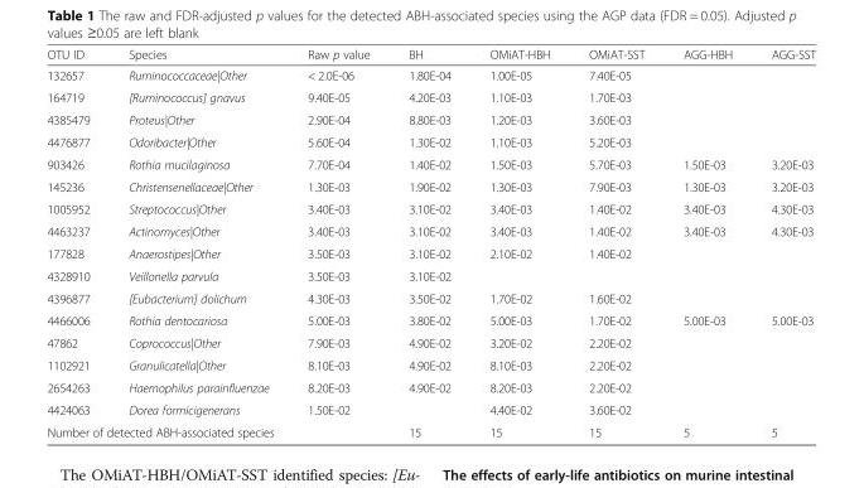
<table><thead><tr><td>OTU ID</td><td>Species</td><td>Raw p value</td><td>BH</td><td>OMiAT-HBH</td><td>OMiAT-SST</td><td>AGG-HBH</td><td>AGG-SST</td></tr></thead><tbody><tr><td>132657</td><td>Ruminococcaceae|Other</td><td>&lt; 2.0E-06</td><td>1.80E-04</td><td>1.00E-05</td><td>7.40E-05</td><td></td><td></td></tr><tr><td>164719</td><td>[Ruminococcus] gnavus</td><td>9.40E-05</td><td>4.20E-03</td><td>1.10E-03</td><td>1.70E-03</td><td></td><td></td></tr><tr><td>4385479</td><td>Proteus|Other</td><td>2.90E-04</td><td>8.80E-03</td><td>1.20E-03</td><td>3.60E-03</td><td></td><td></td></tr><tr><td>4476877</td><td>Odoribacter|Other</td><td>5.60E-04</td><td>1.30E-02</td><td>1.10E-03</td><td>5.20E-03</td><td></td><td></td></tr><tr><td>903426</td><td>Rothia mucilaginosa</td><td>7.70E-04</td><td>1.40E-02</td><td>1.50E-03</td><td>5.70E-03</td><td>1.50E-03</td><td>3.20E-03</td></tr><tr><td>145236</td><td>Christensenellaceae|Other</td><td>1.30E-03</td><td>1.90E-02</td><td>1.30E-03</td><td>7.90E-03</td><td>1.30E-03</td><td>3.20E-03</td></tr><tr><td>1005952</td><td>Streptococcus|Other</td><td>3.40E-03</td><td>3.10E-02</td><td>3.40E-03</td><td>1.40E-02</td><td>3.40E-03</td><td>4.30E-03</td></tr><tr><td>4463237</td><td>Actinomyces|Other</td><td>3.40E-03</td><td>3.10E-02</td><td>3.40E-03</td><td>1.40E-02</td><td>3.40E-03</td><td>4.30E-03</td></tr><tr><td>177828</td><td>Anaerostipes|Other</td><td>3.50E-03</td><td>3.10E-02</td><td>2.10E-02</td><td>1.40E-02</td><td></td><td></td></tr><tr><td>4328910</td><td>Veillonella parvula</td><td>3.50E-03</td><td>3.10E-02</td><td></td><td></td><td></td><td></td></tr><tr><td>4396877</td><td>[Eubacterium] dolichum</td><td>4.30E-03</td><td>3.50E-02</td><td>1.70E-02</td><td>1.60E-02</td><td></td><td></td></tr><tr><td>4466006</td><td>Rothia dentocariosa</td><td>5.00E-03</td><td>3.80E-02</td><td>5.00E-03</td><td>1.70E-02</td><td>5.00E-03</td><td>5.00E-03</td></tr><tr><td>47862</td><td>Coprococcus|Other</td><td>7.90E-03</td><td>4.90E-02</td><td>3.20E-02</td><td>2.20E-02</td><td></td><td></td></tr><tr><td>1102921</td><td>Granulicatella|Other</td><td>8.10E-03</td><td>4.90E-02</td><td>8.10E-03</td><td>2.20E-02</td><td></td><td></td></tr><tr><td>2654263</td><td>Haemophilus parainfluenzae</td><td>8.20E-03</td><td>4.90E-02</td><td>8.20E-03</td><td>2.20E-02</td><td></td><td></td></tr><tr><td>4424063</td><td>Dorea formicigenerans</td><td>1.50E-02</td><td></td><td>4.40E-02</td><td>3.60E-02</td><td></td><td></td></tr><tr><td colspan="3">Number of detected ABH-associated species</td><td>15</td><td>15</td><td>15</td><td>5</td><td>5</td></tr></tbody></table>